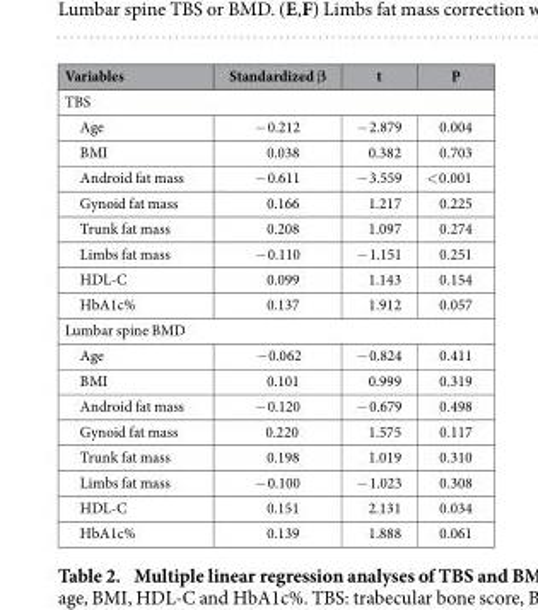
<table><thead><tr><td>Variables</td><td>Standardized β</td><td>t</td><td>P</td></tr></thead><tbody><tr><td colspan="4">TBS</td></tr><tr><td>Age</td><td>− 0.212</td><td>− 2.879</td><td>0.004</td></tr><tr><td>BMI</td><td>0.038</td><td>0.382</td><td>0.703</td></tr><tr><td>Android fat mass</td><td>− 0.611</td><td>− 3.559</td><td>&lt; 0.001</td></tr><tr><td>Gynoid fat mass</td><td>0.166</td><td>1.217</td><td>0.225</td></tr><tr><td>Trunk fat mass</td><td>0.208</td><td>1.097</td><td>0.274</td></tr><tr><td>Limbs fat mass</td><td>− 0.110</td><td>− 1.151</td><td>0.251</td></tr><tr><td>HDL-C</td><td>0.099</td><td>1.143</td><td>0.154</td></tr><tr><td>HbA1c%</td><td>0.137</td><td>1.912</td><td>0.057</td></tr><tr><td colspan="4">Lumbar spine BMD</td></tr><tr><td>Age</td><td>− 0.062</td><td>− 0.824</td><td>0.411</td></tr><tr><td>BMI</td><td>0.101</td><td>0.999</td><td>0.319</td></tr><tr><td>Android fat mass</td><td>− 0.120</td><td>− 0.679</td><td>0.498</td></tr><tr><td>Gynoid fat mass</td><td>0.220</td><td>1.575</td><td>0.117</td></tr><tr><td>Trunk fat mass</td><td>0.198</td><td>1.019</td><td>0.310</td></tr><tr><td>Limbs fat mass</td><td>− 0.100</td><td>− 1.023</td><td>0.308</td></tr><tr><td>HDL-C</td><td>0.151</td><td>2.131</td><td>0.034</td></tr><tr><td>HbA1c%</td><td>0.139</td><td>1.888</td><td>0.061</td></tr></tbody></table>